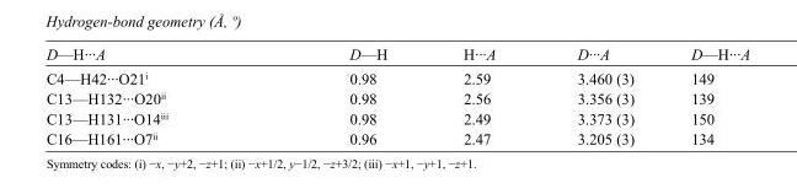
<table><tbody><tr><td>D—H···A</td><td>D—H</td><td>H···A</td><td>D···A</td><td>D—H···A</td></tr><tr><td>C4—H42···O21<sup>i</sup></td><td>0.98</td><td>2.59</td><td>3.460 (3)</td><td>149</td></tr><tr><td>C13—H132···O20<sup>ii</sup></td><td>0.98</td><td>2.56</td><td>3.356 (3)</td><td>139</td></tr><tr><td>C13—H131···O14<sup>iii</sup></td><td>0.98</td><td>2.49</td><td>3.373 (3)</td><td>150</td></tr><tr><td>C16—H161···O7<sup>ii</sup></td><td>0.96</td><td>2.47</td><td>3.205 (3)</td><td>134</td></tr></tbody></table>